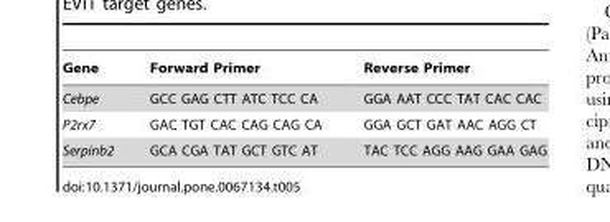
<table><thead><tr><td>Gene</td><td>Forward Primer</td><td>Reverse Primer</td></tr></thead><tbody><tr><td>Cebpe</td><td>GCC GAG CTT ATC TCC CA</td><td>GGA AAT CCC TAT CAC CAC</td></tr><tr><td>P2rx7</td><td>GAC TGT CAC CAG CAG CA</td><td>GGA GCT GAT AAC AGG CT</td></tr><tr><td>Serpinb2</td><td>GCA CGA TAT GCT GTC AT</td><td>TAC TCC AGG AAG GAA GAG</td></tr></tbody></table>